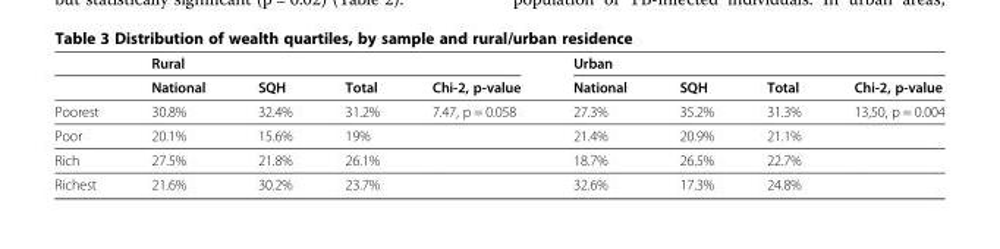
<table><thead><tr><td rowspan="2"></td><td colspan="4">Rural</td><td colspan="4">Urban</td></tr><tr><td>National</td><td>SQH</td><td>Total</td><td>Chi-2, p-value</td><td>National</td><td>SQH</td><td>Total</td><td>Chi-2, p-value</td></tr></thead><tbody><tr><td>Poorest</td><td>30.8%</td><td>32.4%</td><td>31.2%</td><td>7.47, p = 0.058</td><td>27.3%</td><td>35.2%</td><td>31.3%</td><td>13,50, p = 0.004</td></tr><tr><td>Poor</td><td>20.1%</td><td>15.6%</td><td>19%</td><td></td><td>21.4%</td><td>20.9%</td><td>21.1%</td><td></td></tr><tr><td>Rich</td><td>27.5%</td><td>21.8%</td><td>26.1%</td><td></td><td>18.7%</td><td>26.5%</td><td>22.7%</td><td></td></tr><tr><td>Richest</td><td>21.6%</td><td>30.2%</td><td>23.7%</td><td></td><td>32.6%</td><td>17.3%</td><td>24.8%</td><td></td></tr></tbody></table>